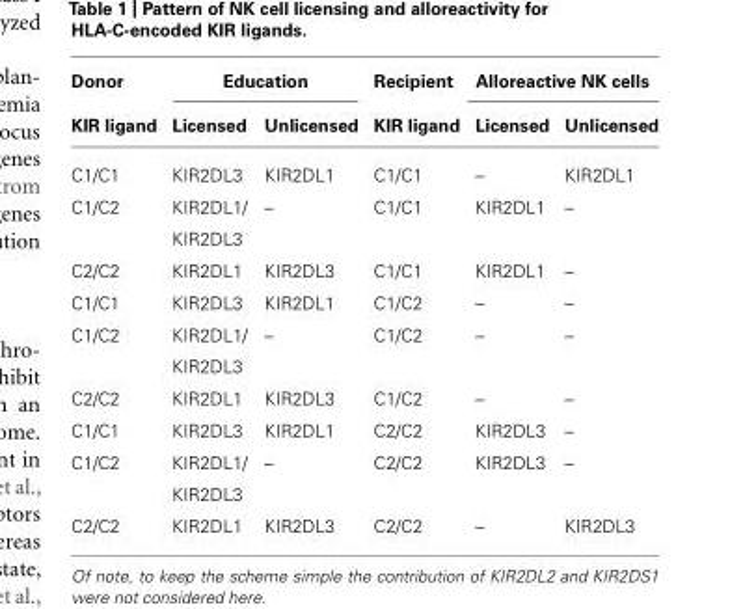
<table><thead><tr><td rowspan="2">Donor KIR ligand</td><td colspan="2">Education</td><td rowspan="2">Recipient KIR ligand</td><td colspan="2">Alloreactive NK cells</td></tr><tr><td>Licensed</td><td>Unlicensed</td><td>Licensed</td><td>Unlicensed</td></tr></thead><tbody><tr><td>C1/C1</td><td>KIR2DL3</td><td>KIR2DL1</td><td>C1/C1</td><td>–</td><td>KIR2DL1</td></tr><tr><td>C1/C2</td><td>KIR2DL1/ KIR2DL3</td><td>–</td><td>C1/C1</td><td>KIR2DL1</td><td>–</td></tr><tr><td>C2/C2</td><td>KIR2DL1</td><td>KIR2DL3</td><td>C1/C1</td><td>KIR2DL1</td><td>–</td></tr><tr><td>C1/C1</td><td>KIR2DL3</td><td>KIR2DL1</td><td>C1/C2</td><td>–</td><td>–</td></tr><tr><td>C1/C2</td><td>KIR2DL1/ KIR2DL3</td><td>–</td><td>C1/C2</td><td>–</td><td>–</td></tr><tr><td>C2/C2</td><td>KIR2DL1</td><td>KIR2DL3</td><td>C1/C2</td><td>–</td><td>–</td></tr><tr><td>C1/C1</td><td>KIR2DL3</td><td>KIR2DL1</td><td>C2/C2</td><td>KIR2DL3</td><td>–</td></tr><tr><td>C1/C2</td><td>KIR2DL1/ KIR2DL3</td><td>–</td><td>C2/C2</td><td>KIR2DL3</td><td>–</td></tr><tr><td>C2/C2</td><td>KIR2DL1</td><td>KIR2DL3</td><td>C2/C2</td><td>–</td><td>KIR2DL3</td></tr></tbody></table>